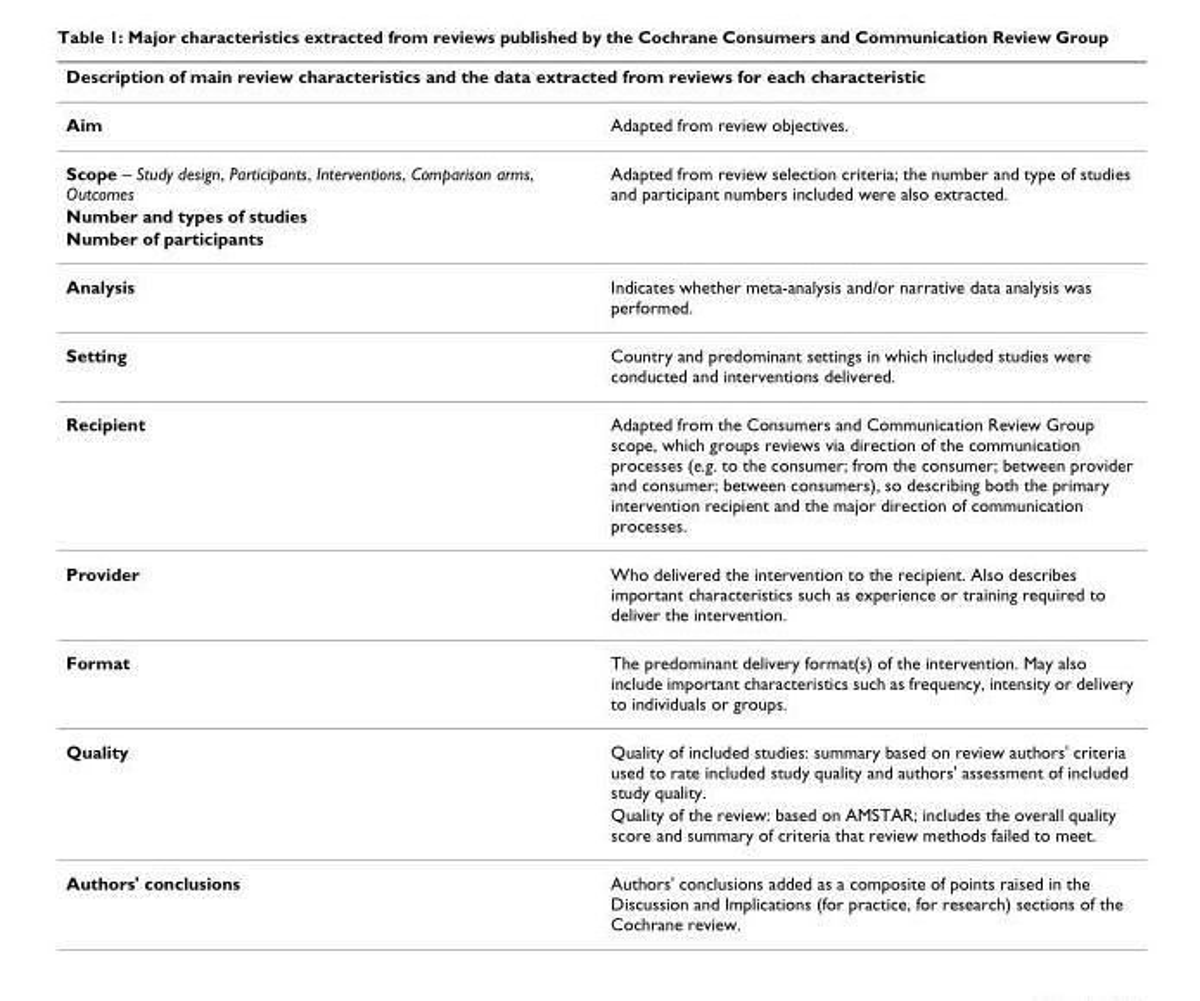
<table><thead><tr><td colspan="2">Description of main review characteristics and the data extracted from reviews for each characteristic</td></tr><tr><td>Aim</td><td>Adapted from review objectives.</td></tr></thead><tbody><tr><td>Scope – Study design, Participants, Interventions, Comparison arms, Outcomes</td><td>Adapted from review selection criteria; the number and type of studies and participant numbers included were also extracted.</td></tr><tr><td colspan="2">Number and types of studies</td></tr><tr><td colspan="2">Number of participants</td></tr><tr><td>Analysis</td><td>Indicates whether meta-analysis and/or narrative data analysis was performed.</td></tr><tr><td>Setting</td><td>Country and predominant settings in which included studies were conducted and interventions delivered.</td></tr><tr><td>Recipient</td><td>Adapted from the Consumers and Communication Review Group scope, which groups reviews via direction of the communication processes (e.g. to the consumer; from the consumer; between provider and consumer; between consumers), so describing both the primary intervention recipient and the major direction of communication processes.</td></tr><tr><td>Provider</td><td>Who delivered the intervention to the recipient. Also describes important characteristics such as experience or training required to deliver the intervention.</td></tr><tr><td>Format</td><td>The predominant delivery format(s) of the intervention. May also include important characteristics such as frequency, intensity or delivery to individuals or groups.</td></tr><tr><td rowspan="2">Quality</td><td>Quality of included studies: summary based on review authors&#x27; criteria used to rate included study quality and authors&#x27; assessment of included study quality.</td></tr><tr><td>Quality of the review: based on AMSTAR; includes the overall quality score and summary of criteria that review methods failed to meet.</td></tr><tr><td>Authors&#x27; conclusions</td><td>Authors&#x27; conclusions added as a composite of points raised in the Discussion and Implications (for practice, for research) sections of the Cochrane review.</td></tr></tbody></table>